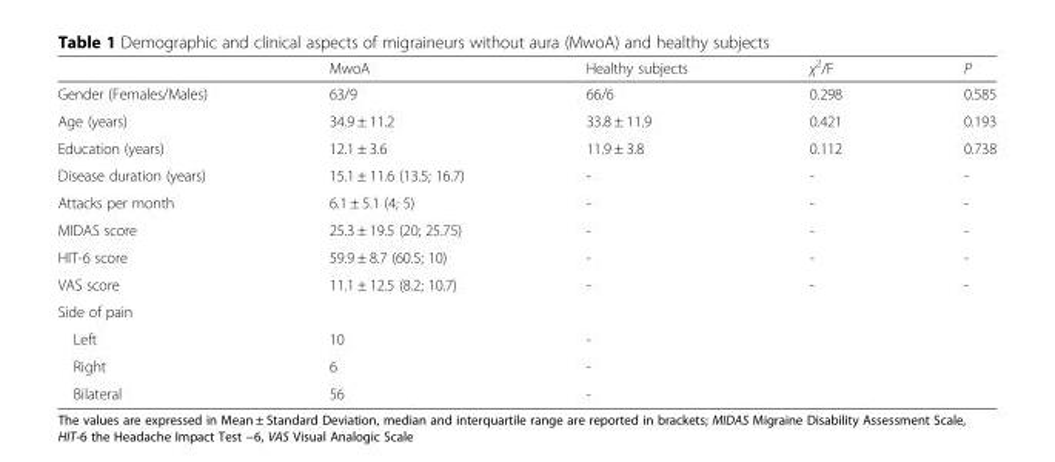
<table><thead><tr><td></td><td>MwoA</td><td>Healthy subjects</td><td>χ<sup>2</sup>/F</td><td>P</td></tr></thead><tbody><tr><td>Gender (Females/Males)</td><td>63/9</td><td>66/6</td><td>0.298</td><td>0.585</td></tr><tr><td>Age (years)</td><td>34.9 ± 11.2</td><td>33.8 ± 11.9</td><td>0.421</td><td>0.193</td></tr><tr><td>Education (years)</td><td>12.1 ± 3.6</td><td>11.9 ± 3.8</td><td>0.112</td><td>0.738</td></tr><tr><td>Disease duration (years)</td><td>15.1 ± 11.6 (13.5; 16.7)</td><td>-</td><td>-</td><td>-</td></tr><tr><td>Attacks per month</td><td>6.1 ± 5.1 (4; 5)</td><td>-</td><td>-</td><td>-</td></tr><tr><td>MIDAS score</td><td>25.3 ± 19.5 (20; 25.75)</td><td>-</td><td>-</td><td>-</td></tr><tr><td>HIT-6 score</td><td>59.9 ± 8.7 (60.5; 10)</td><td>-</td><td>-</td><td>-</td></tr><tr><td>VAS score</td><td>11.1 ± 12.5 (8.2; 10.7)</td><td>-</td><td>-</td><td>-</td></tr><tr><td colspan="5">Side of pain</td></tr><tr><td>Left</td><td>10</td><td>-</td><td></td><td></td></tr><tr><td>Right</td><td>6</td><td>-</td><td></td><td></td></tr><tr><td>Bilateral</td><td>56</td><td>-</td><td></td><td></td></tr></tbody></table>